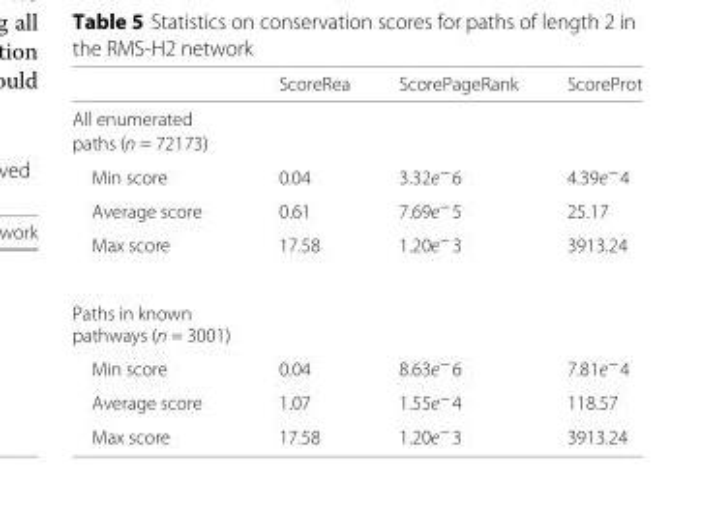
<table><thead><tr><td></td><td>ScoreRea</td><td>ScorePageRank</td><td>ScoreProt</td></tr></thead><tbody><tr><td colspan="4">All enumerated</td></tr><tr><td colspan="4">paths (n = 72173)</td></tr><tr><td>Min score</td><td>0.04</td><td>3.32e<sup>−</sup>6</td><td>4.39e<sup>−</sup>4</td></tr><tr><td>Average score</td><td>0.61</td><td>7.69e<sup>−</sup>5</td><td>25.17</td></tr><tr><td>Max score</td><td>17.58</td><td>1.20e<sup>−</sup>3</td><td>3913.24</td></tr><tr><td colspan="4">Paths in known</td></tr><tr><td colspan="4">pathways (n = 3001)</td></tr><tr><td>Min score</td><td>0.04</td><td>8.63e<sup>−</sup>6</td><td>7.81e<sup>−</sup>4</td></tr><tr><td>Average score</td><td>1.07</td><td>1.55e<sup>−</sup>4</td><td>118.57</td></tr><tr><td>Max score</td><td>17.58</td><td>1.20e<sup>−</sup>3</td><td>3913.24</td></tr></tbody></table>